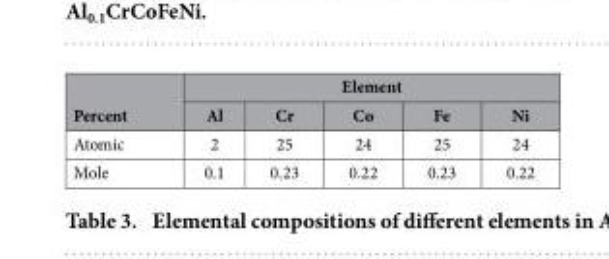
<table><thead><tr><td rowspan="2">Percent</td><td colspan="5">Element</td></tr><tr><td>Al</td><td>Cr</td><td>Co</td><td>Fe</td><td>Ni</td></tr></thead><tbody><tr><td>Atomic</td><td>2</td><td>25</td><td>24</td><td>25</td><td>24</td></tr><tr><td>Mole</td><td>0.1</td><td>0.23</td><td>0.22</td><td>0.23</td><td>0.22</td></tr></tbody></table>